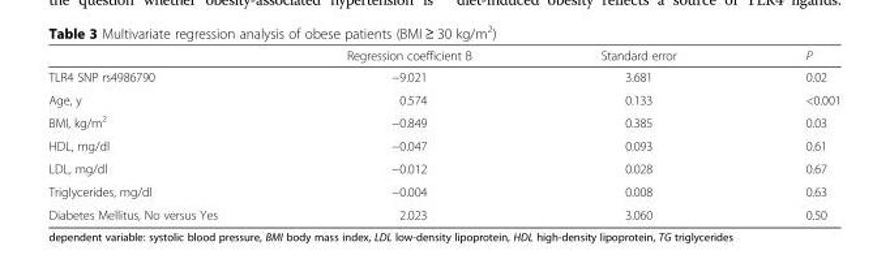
<table><thead><tr><td></td><td>Regression coefficient B</td><td>Standard error</td><td>P</td></tr></thead><tbody><tr><td>TLR4 SNP rs4986790</td><td>−9.021</td><td>3.681</td><td>0.02</td></tr><tr><td>Age, y</td><td>0.574</td><td>0.133</td><td>&lt;0.001</td></tr><tr><td>BMI, kg/m<sup>2</sup></td><td>−0.849</td><td>0.385</td><td>0.03</td></tr><tr><td>HDL, mg/dl</td><td>−0.047</td><td>0.093</td><td>0.61</td></tr><tr><td>LDL, mg/dl</td><td>−0.012</td><td>0.028</td><td>0.67</td></tr><tr><td>Triglycerides, mg/dl</td><td>−0.004</td><td>0.008</td><td>0.63</td></tr><tr><td>Diabetes Mellitus, No versus Yes</td><td>2.023</td><td>3.060</td><td>0.50</td></tr></tbody></table>